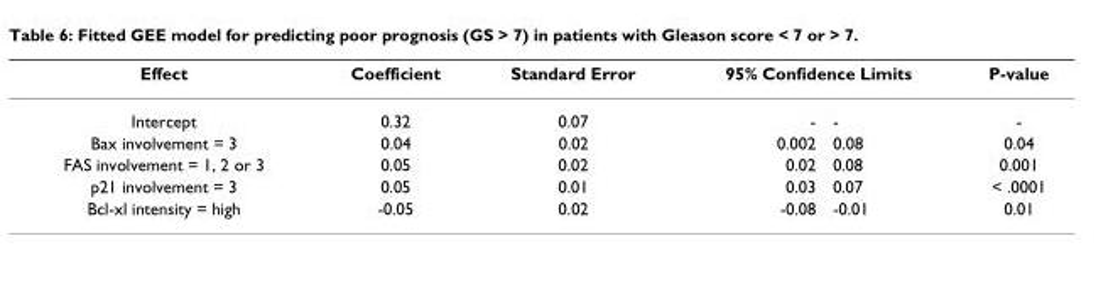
<table><thead><tr><td rowspan="2">Effect Intercept</td><td rowspan="2">Coefficient 0.32</td><td rowspan="2">Standard Error 0.07</td><td colspan="2">95% Confidence Limits</td><td rowspan="2">P-value -</td></tr><tr><td>-</td><td>-</td></tr></thead><tbody><tr><td>Bax involvement = 3</td><td>0.04</td><td>0.02</td><td>0.002</td><td>0.08</td><td>0.04</td></tr><tr><td>FAS involvement = 1, 2 or 3</td><td>0.05</td><td>0.02</td><td>0.02</td><td>0.08</td><td>0.001</td></tr><tr><td>p21 involvement = 3</td><td>0.05</td><td>0.01</td><td>0.03</td><td>0.07</td><td>&lt; .0001</td></tr><tr><td>Bcl-xl intensity = high</td><td>-0.05</td><td>0.02</td><td>-0.08</td><td>-0.01</td><td>0.01</td></tr></tbody></table>